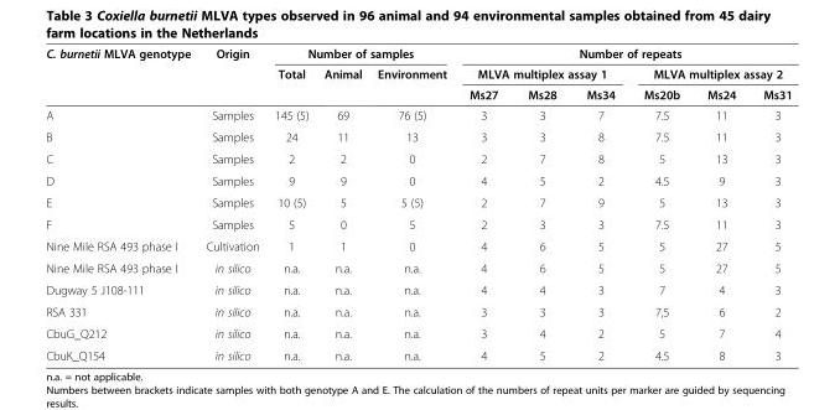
<table><thead><tr><td rowspan="3">C. burnetii MLVA genotype</td><td rowspan="3">Origin</td><td colspan="3">Number of samples</td><td colspan="6">Number of repeats</td></tr><tr><td rowspan="2">Total</td><td rowspan="2">Animal</td><td rowspan="2">Environment</td><td colspan="3">MLVA multiplex assay 1</td><td colspan="3">MLVA multiplex assay 2</td></tr><tr><td>Ms27</td><td>Ms28</td><td>Ms34</td><td>Ms20b</td><td>Ms24</td><td>Ms31</td></tr></thead><tbody><tr><td>A</td><td>Samples</td><td>145 (5)</td><td>69</td><td>76 (5)</td><td>3</td><td>3</td><td>7</td><td>7.5</td><td>11</td><td>3</td></tr><tr><td>B</td><td>Samples</td><td>24</td><td>11</td><td>13</td><td>3</td><td>3</td><td>8</td><td>7.5</td><td>11</td><td>3</td></tr><tr><td>C</td><td>Samples</td><td>2</td><td>2</td><td>0</td><td>2</td><td>7</td><td>8</td><td>5</td><td>13</td><td>3</td></tr><tr><td>D</td><td>Samples</td><td>9</td><td>9</td><td>0</td><td>4</td><td>5</td><td>2</td><td>4.5</td><td>9</td><td>3</td></tr><tr><td>E</td><td>Samples</td><td>10 (5)</td><td>5</td><td>5 (5)</td><td>2</td><td>7</td><td>9</td><td>5</td><td>13</td><td>3</td></tr><tr><td>F</td><td>Samples</td><td>5</td><td>0</td><td>5</td><td>2</td><td>3</td><td>3</td><td>7.5</td><td>11</td><td>3</td></tr><tr><td>Nine Mile RSA 493 phase I</td><td>Cultivation</td><td>1</td><td>1</td><td>0</td><td>4</td><td>6</td><td>5</td><td>5</td><td>27</td><td>5</td></tr><tr><td>Nine Mile RSA 493 phase I</td><td>in silico</td><td>n.a.</td><td>n.a.</td><td>n.a.</td><td>4</td><td>6</td><td>5</td><td>5</td><td>27</td><td>5</td></tr><tr><td>Dugway 5 J108-111</td><td>in silico</td><td>n.a.</td><td>n.a.</td><td>n.a.</td><td>4</td><td>4</td><td>3</td><td>7</td><td>4</td><td>3</td></tr><tr><td>RSA 331</td><td>in silico</td><td>n.a.</td><td>n.a.</td><td>n.a.</td><td>3</td><td>3</td><td>3</td><td>7,5</td><td>6</td><td>2</td></tr><tr><td>CbuG_Q212</td><td>in silico</td><td>n.a.</td><td>n.a.</td><td>n.a.</td><td>3</td><td>4</td><td>2</td><td>5</td><td>7</td><td>4</td></tr><tr><td>CbuK_Q154</td><td>in silico</td><td>n.a.</td><td>n.a.</td><td>n.a.</td><td>4</td><td>5</td><td>2</td><td>4.5</td><td>8</td><td>3</td></tr></tbody></table>